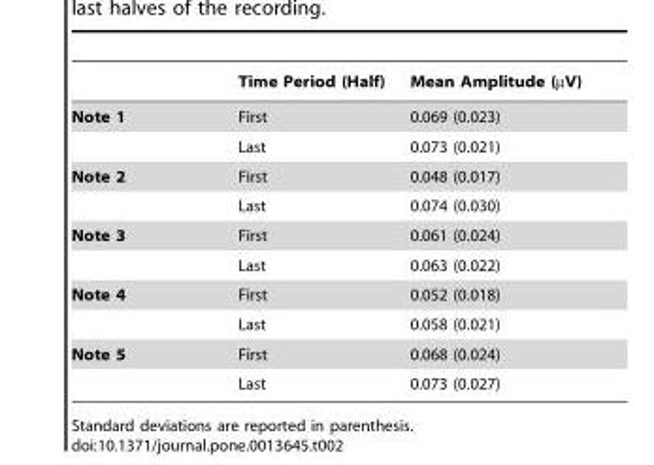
<table><thead><tr><td></td><td>Time Period (Half)</td><td>Mean Amplitude (µV)</td></tr></thead><tbody><tr><td rowspan="2">Note 1</td><td>First</td><td>0.069 (0.023)</td></tr><tr><td>Last</td><td>0.073 (0.021)</td></tr><tr><td rowspan="2">Note 2</td><td>First</td><td>0.048 (0.017)</td></tr><tr><td>Last</td><td>0.074 (0.030)</td></tr><tr><td rowspan="2">Note 3</td><td>First</td><td>0.061 (0.024)</td></tr><tr><td>Last</td><td>0.063 (0.022)</td></tr><tr><td rowspan="2">Note 4</td><td>First</td><td>0.052 (0.018)</td></tr><tr><td>Last</td><td>0.058 (0.021)</td></tr><tr><td rowspan="2">Note 5</td><td>First</td><td>0.068 (0.024)</td></tr><tr><td>Last</td><td>0.073 (0.027)</td></tr></tbody></table>